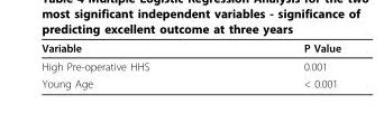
<table><thead><tr><td>Variable</td><td>P Value</td></tr></thead><tbody><tr><td>High Pre-operative HHS</td><td>0.001</td></tr><tr><td>Young Age</td><td>&lt; 0.001</td></tr></tbody></table>